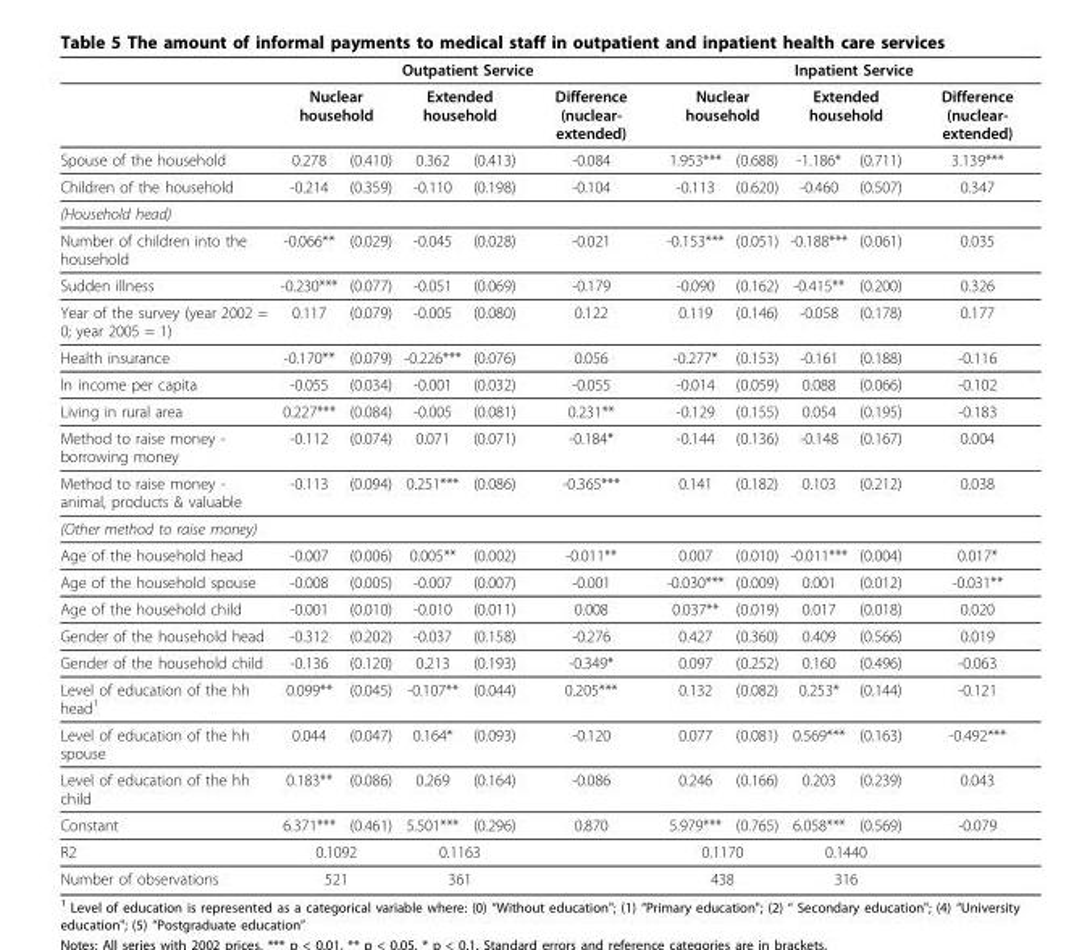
<table><thead><tr><td rowspan="3">Spouse of the household</td><td colspan="5">Outpatient Service</td><td colspan="5">Inpatient Service</td></tr><tr><td colspan="2">Nuclear household</td><td colspan="2">Extended household</td><td rowspan="2">Difference (nuclear- extended) -0.084</td><td colspan="2">Nuclear household</td><td colspan="2">Extended household</td><td rowspan="2">Difference (nuclear- extended) 3.139***</td></tr><tr><td>0.278</td><td>(0.410)</td><td>0.362</td><td>(0.413)</td><td>1.953***</td><td>(0.688)</td><td>-1.186*</td><td>(0.711)</td></tr></thead><tbody><tr><td>Children of the household</td><td>-0.214</td><td>(0.359)</td><td>-0.110</td><td>(0.198)</td><td>-0.104</td><td>-0.113</td><td>(0.620)</td><td>-0.460</td><td>(0.507)</td><td>0.347</td></tr><tr><td colspan="11">(Household head)</td></tr><tr><td>Number of children into the household</td><td>-0.066**</td><td>(0.029)</td><td>-0.045</td><td>(0.028)</td><td>-0.021</td><td>-0.153***</td><td>(0.051)</td><td>-0.188***</td><td>(0.061)</td><td>0.035</td></tr><tr><td>Sudden illness</td><td>-0.230***</td><td>(0.077)</td><td>-0.051</td><td>(0.069)</td><td>-0.179</td><td>-0.090</td><td>(0.162)</td><td>-0.415**</td><td>(0.200)</td><td>0.326</td></tr><tr><td>Year of the survey (year 2002 = 0; year 2005 = 1)</td><td>0.117</td><td>(0.079)</td><td>-0.005</td><td>(0.080)</td><td>0.122</td><td>0.119</td><td>(0.146)</td><td>-0.058</td><td>(0.178)</td><td>0.177</td></tr><tr><td>Health insurance</td><td>-0.170**</td><td>(0.079)</td><td>-0.226***</td><td>(0.076)</td><td>0.056</td><td>-0.277*</td><td>(0.153)</td><td>-0.161</td><td>(0.188)</td><td>-0.116</td></tr><tr><td>ln income per capita</td><td>-0.055</td><td>(0.034)</td><td>-0.001</td><td>(0.032)</td><td>-0.055</td><td>-0.014</td><td>(0.059)</td><td>0.088</td><td>(0.066)</td><td>-0.102</td></tr><tr><td>Living in rural area</td><td>0.227***</td><td>(0.084)</td><td>-0.005</td><td>(0.081)</td><td>0.231**</td><td>-0.129</td><td>(0.155)</td><td>0.054</td><td>(0.195)</td><td>-0.183</td></tr><tr><td>Method to raise money - borrowing money</td><td>-0.112</td><td>(0.074)</td><td>0.071</td><td>(0.071)</td><td>-0.184*</td><td>-0.144</td><td>(0.136)</td><td>-0.148</td><td>(0.167)</td><td>0.004</td></tr><tr><td>Method to raise money - animal, products &amp; valuable</td><td>-0.113</td><td>(0.094)</td><td>0.251***</td><td>(0.086)</td><td>-0.365***</td><td>0.141</td><td>(0.182)</td><td>0.103</td><td>(0.212)</td><td>0.038</td></tr><tr><td colspan="11">(Other method to raise money)</td></tr><tr><td>Age of the household head</td><td>-0.007</td><td>(0.006)</td><td>0.005**</td><td>(0.002)</td><td>-0.011**</td><td>0.007</td><td>(0.010)</td><td>-0.011***</td><td>(0.004)</td><td>0.017*</td></tr><tr><td>Age of the household spouse</td><td>-0.008</td><td>(0.005)</td><td>-0.007</td><td>(0.007)</td><td>-0.001</td><td>-0.030***</td><td>(0.009)</td><td>0.001</td><td>(0.012)</td><td>-0.031**</td></tr><tr><td>Age of the household child</td><td>-0.001</td><td>(0.010)</td><td>-0.010</td><td>(0.011)</td><td>0.008</td><td>0.037**</td><td>(0.019)</td><td>0.017</td><td>(0.018)</td><td>0.020</td></tr><tr><td>Gender of the household head</td><td>-0.312</td><td>(0.202)</td><td>-0.037</td><td>(0.158)</td><td>-0.276</td><td>0.427</td><td>(0.360)</td><td>0.409</td><td>(0.566)</td><td>0.019</td></tr><tr><td>Gender of the household child</td><td>-0.136</td><td>(0.120)</td><td>0.213</td><td>(0.193)</td><td>-0.349*</td><td>0.097</td><td>(0.252)</td><td>0.160</td><td>(0.496)</td><td>-0.063</td></tr><tr><td>Level of education of the hh head<sup>1</sup></td><td>0.099**</td><td>(0.045)</td><td>-0.107**</td><td>(0.044)</td><td>0.205***</td><td>0.132</td><td>(0.082)</td><td>0.253*</td><td>(0.144)</td><td>-0.121</td></tr><tr><td>Level of education of the hh spouse</td><td>0.044</td><td>(0.047)</td><td>0.164*</td><td>(0.093)</td><td>-0.120</td><td>0.077</td><td>(0.081)</td><td>0.569***</td><td>(0.163)</td><td>-0.492***</td></tr><tr><td>Level of education of the hh child</td><td>0.183**</td><td>(0.086)</td><td>0.269</td><td>(0.164)</td><td>-0.086</td><td>0.246</td><td>(0.166)</td><td>0.203</td><td>(0.239)</td><td>0.043</td></tr><tr><td>Constant</td><td>6.371***</td><td>(0.461)</td><td>5.501***</td><td>(0.296)</td><td>0.870</td><td>5.979***</td><td>(0.765)</td><td>6.058***</td><td>(0.569)</td><td>-0.079</td></tr><tr><td>R2</td><td colspan="2">0.1092</td><td colspan="2">0.1163</td><td></td><td colspan="2">0.1170</td><td colspan="2">0.1440</td><td></td></tr><tr><td>Number of observations</td><td colspan="2">521</td><td colspan="2">361</td><td></td><td colspan="2">438</td><td colspan="2">316</td><td></td></tr></tbody></table>